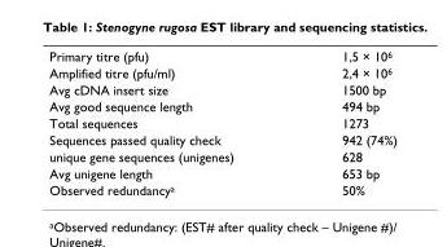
<table><tbody><tr><td>Primary titre (pfu)</td><td>1,5 × 106</td></tr><tr><td>Amplified titre (pfu/ml)</td><td>2,4 × 106</td></tr><tr><td>Avg cDNA insert size</td><td>1500 bp</td></tr><tr><td>Avg good sequence length</td><td>494 bp</td></tr><tr><td>Total sequences</td><td>1273</td></tr><tr><td>Sequences passed quality check</td><td>942 (74%)</td></tr><tr><td>unique gene sequences (unigenes)</td><td>628</td></tr><tr><td>Avg unigene length</td><td>653 bp</td></tr><tr><td>Observed redundancya</td><td>50%</td></tr></tbody></table>